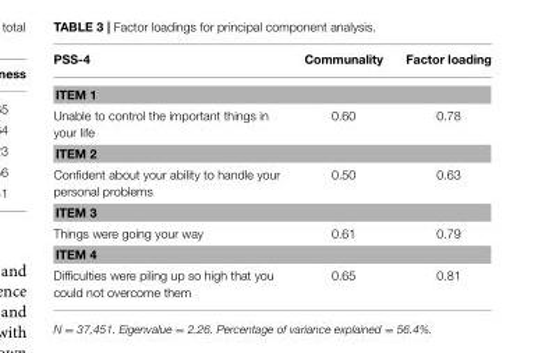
<table><thead><tr><td>PSS-4</td><td>Communality</td><td>Factor loading</td></tr></thead><tbody><tr><td colspan="3">ITEM 1</td></tr><tr><td>Unable to control the important things in your life</td><td>0.60</td><td>0.78</td></tr><tr><td colspan="3">ITEM 2</td></tr><tr><td>Confident about your ability to handle your personal problems</td><td>0.50</td><td>0.63</td></tr><tr><td colspan="3">ITEM 3</td></tr><tr><td>Things were going your way</td><td>0.61</td><td>0.79</td></tr><tr><td colspan="3">ITEM 4</td></tr><tr><td>Difficulties were piling up so high that you could not overcome them</td><td>0.65</td><td>0.81</td></tr></tbody></table>